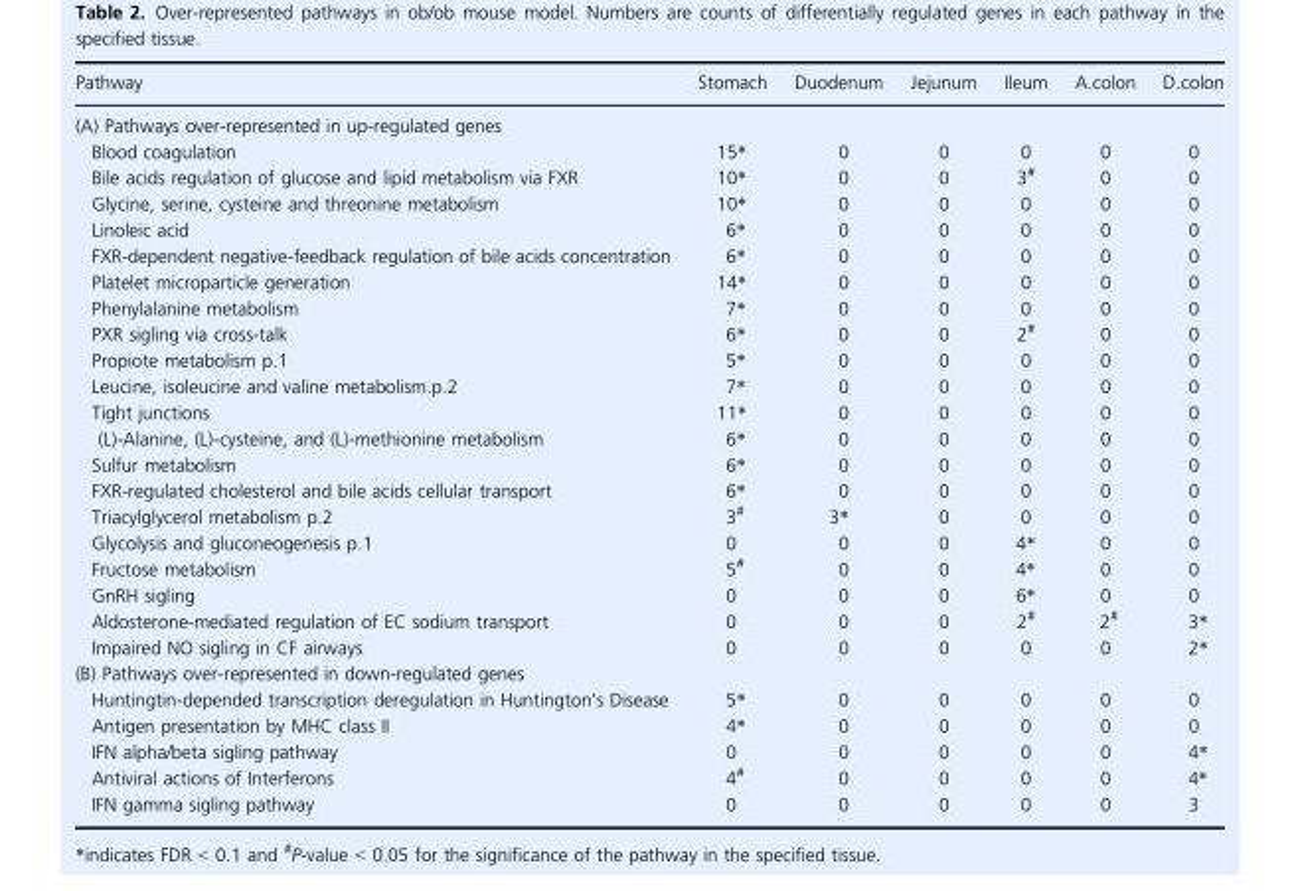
<table><thead><tr><td>Pathway</td><td>Stomach</td><td>Duodenum</td><td>Jejunum</td><td>Ileum</td><td>A.colon</td><td>D.colon</td></tr></thead><tbody><tr><td colspan="7">(A) Pathways over-represented in up-regulated genes</td></tr><tr><td>Blood coagulation</td><td>15*</td><td>0</td><td>0</td><td>0</td><td>0</td><td>0</td></tr><tr><td>Bile acids regulation of glucose and lipid metabolism via FXR</td><td>10*</td><td>0</td><td>0</td><td>3#</td><td>0</td><td>0</td></tr><tr><td>Glycine, serine, cysteine and threonine metabolism</td><td>10*</td><td>0</td><td>0</td><td>0</td><td>0</td><td>0</td></tr><tr><td>Linoleic acid</td><td>6*</td><td>0</td><td>0</td><td>0</td><td>0</td><td>0</td></tr><tr><td>FXR-dependent negative-feedback regulation of bile acids concentration</td><td>6*</td><td>0</td><td>0</td><td>0</td><td>0</td><td>0</td></tr><tr><td>Platelet microparticle generation</td><td>14*</td><td>0</td><td>0</td><td>0</td><td>0</td><td>0</td></tr><tr><td>Phenylalanine metabolism</td><td>7*</td><td>0</td><td>0</td><td>0</td><td>0</td><td>0</td></tr><tr><td>PXR sigling via cross-talk</td><td>6*</td><td>0</td><td>0</td><td>2#</td><td>0</td><td>0</td></tr><tr><td>Propiote metabolism p.1</td><td>5*</td><td>0</td><td>0</td><td>0</td><td>0</td><td>0</td></tr><tr><td>Leucine, isoleucine and valine metabolism.p.2</td><td>7*</td><td>0</td><td>0</td><td>0</td><td>0</td><td>0</td></tr><tr><td>Tight junctions</td><td>11*</td><td>0</td><td>0</td><td>0</td><td>0</td><td>0</td></tr><tr><td>(L)-Alanine, (L)-cysteine, and (L)-methionine metabolism</td><td>6*</td><td>0</td><td>0</td><td>0</td><td>0</td><td>0</td></tr><tr><td>Sulfur metabolism</td><td>6*</td><td>0</td><td>0</td><td>0</td><td>0</td><td>0</td></tr><tr><td>FXR-regulated cholesterol and bile acids cellular transport</td><td>6*</td><td>0</td><td>0</td><td>0</td><td>0</td><td>0</td></tr><tr><td>Triacylglycerol metabolism p.2</td><td>3#</td><td>3*</td><td>0</td><td>0</td><td>0</td><td>0</td></tr><tr><td>Glycolysis and gluconeogenesis p.1</td><td>0</td><td>0</td><td>0</td><td>4*</td><td>0</td><td>0</td></tr><tr><td>Fructose metabolism</td><td>5#</td><td>0</td><td>0</td><td>4*</td><td>0</td><td>0</td></tr><tr><td>GnRH sigling</td><td>0</td><td>0</td><td>0</td><td>6*</td><td>0</td><td>0</td></tr><tr><td>Aldosterone-mediated regulation of EC sodium transport</td><td>0</td><td>0</td><td>0</td><td>2#</td><td>2#</td><td>3*</td></tr><tr><td>Impaired NO sigling in CF airways</td><td>0</td><td>0</td><td>0</td><td>0</td><td>0</td><td>2*</td></tr><tr><td colspan="7">(B) Pathways over-represented in down-regulated genes</td></tr><tr><td>Huntingtin-depended transcription deregulation in Huntington’s Disease</td><td>5*</td><td>0</td><td>0</td><td>0</td><td>0</td><td>0</td></tr><tr><td>Antigen presentation by MHC class II</td><td>4*</td><td>0</td><td>0</td><td>0</td><td>0</td><td>0</td></tr><tr><td>IFN alpha/beta sigling pathway</td><td>0</td><td>0</td><td>0</td><td>0</td><td>0</td><td>4*</td></tr><tr><td>Antiviral actions of Interferons</td><td>4#</td><td>0</td><td>0</td><td>0</td><td>0</td><td>4*</td></tr><tr><td>IFN gamma sigling pathway</td><td>0</td><td>0</td><td>0</td><td>0</td><td>0</td><td>3</td></tr></tbody></table>